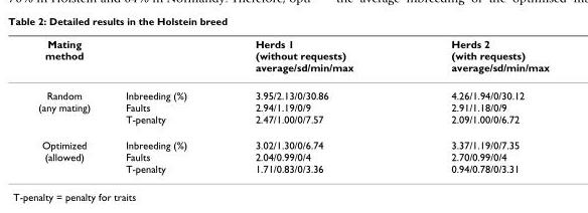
<table><thead><tr><td>Mating method</td><td></td><td>Herds 1 (without requests) average/sd/min/max</td><td>Herds 2 (with requests) average/sd/min/max</td></tr></thead><tbody><tr><td>Random (any mating)</td><td>Inbreeding (%) Faults T-penalty</td><td>3.95/2.13/0/30.86 2.94/1.19/0/9 2.47/1.00/0/7.57</td><td>4.26/1.94/0/30.12 2.91/1.18/0/9 2.09/1.00/0/6.72</td></tr><tr><td>Optimized (allowed)</td><td>Inbreeding (%) Faults T-penalty</td><td>3.02/1.30/0/6.74 2.04/0.99/0/4 1.71/0.83/0/3.36</td><td>3.37/1.19/0/7.35 2.70/0.99/0/4 0.94/0.78/0/3.31</td></tr></tbody></table>